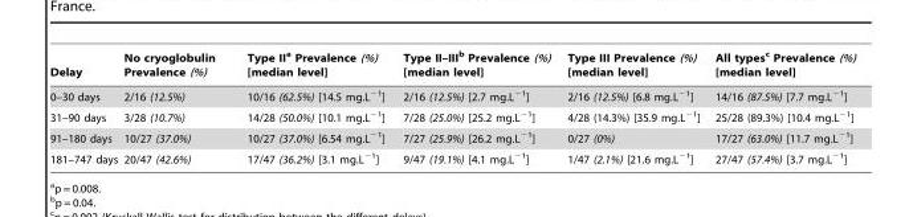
<table><thead><tr><td>Delay</td><td>No cryoglobulin Prevalence (%)</td><td>Type II<sup>a</sup> Prevalence (%) [median level]</td><td>Type II–III<sup>b</sup> Prevalence (%) [median level]</td><td>Type III Prevalence (%) [median level]</td><td>All types<sup>c</sup> Prevalence (%) [median level]</td></tr></thead><tbody><tr><td>0–30 days</td><td>2/16 (12.5%)</td><td>10/16 (62.5%) [14.5 mg.L<sup>−1</sup>]</td><td>2/16 (12.5%) [2.7 mg.L<sup>−1</sup>]</td><td>2/16 (12.5%) [6.8 mg.L<sup>−1</sup>]</td><td>14/16 (87.5%) [7.7 mg.L<sup>−1</sup>]</td></tr><tr><td>31–90 days</td><td>3/28 (10.7%)</td><td>14/28 (50.0%) [10.1 mg.L<sup>−1</sup>]</td><td>7/28 (25.0%) [25.2 mg.L<sup>−1</sup>]</td><td>4/28 (14.3%) [35.9 mg.L<sup>−1</sup>]</td><td>25/28 (89.3%) [10.4 mg.L<sup>−1</sup>]</td></tr><tr><td>91–180 days</td><td>10/27 (37.0%)</td><td>10/27 (37.0%) [6.54 mg.L<sup>−1</sup>]</td><td>7/27 (25.9%) [26.2 mg.L<sup>−1</sup>]</td><td>0/27 (0%)</td><td>17/27 (63.0%) [11.7 mg.L<sup>−1</sup>]</td></tr><tr><td>181–747 days</td><td>20/47 (42.6%)</td><td>17/47 (36.2%) [3.1 mg.L<sup>−1</sup>]</td><td>9/47 (19.1%) [4.1 mg.L<sup>−1</sup>]</td><td>1/47 (2.1%) [21.6 mg.L<sup>−1</sup>]</td><td>27/47 (57.4%) [3.7 mg.L<sup>−1</sup>]</td></tr></tbody></table>